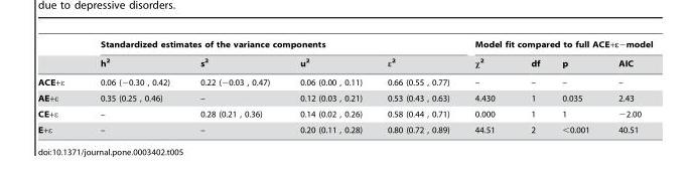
<table><thead><tr><td rowspan="2"></td><td colspan="4">Standardized estimates of the variance components</td><td colspan="4">Model fit compared to full ACE+ε−model</td></tr><tr><td>h<sup>2</sup></td><td>s<sup>2</sup></td><td>u<sup>2</sup></td><td>ε<sup>2</sup></td><td>χ<sup>2</sup></td><td>df</td><td>p</td><td>AIC</td></tr></thead><tbody><tr><td>ACE+ε</td><td>0.06 (−0.30 , 0.42)</td><td>0.22 (−0.03 , 0.47)</td><td>0.06 (0.00 , 0.11)</td><td>0.66 (0.55 , 0.77)</td><td>–</td><td>–</td><td>–</td><td>–</td></tr><tr><td>AE+ε</td><td>0.35 (0.25 , 0.46)</td><td>–</td><td>0.12 (0.03 , 0.21)</td><td>0.53 (0.43 , 0.63)</td><td>4.430</td><td>1</td><td>0.035</td><td>2.43</td></tr><tr><td>CE+ε</td><td>–</td><td>0.28 (0.21 , 0.36)</td><td>0.14 (0.02 , 0.26)</td><td>0.58 (0.44 , 0.71)</td><td>0.000</td><td>1</td><td>1</td><td>−2.00</td></tr><tr><td>E+ε</td><td>–</td><td>–</td><td>0.20 (0.11 , 0.28)</td><td>0.80 (0.72 , 0.89)</td><td>44.51</td><td>2</td><td>&lt;0.001</td><td>40.51</td></tr></tbody></table>